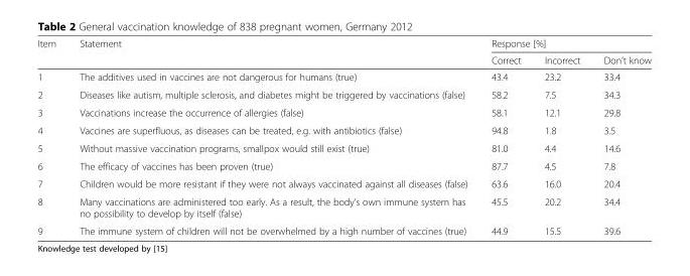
<table><thead><tr><td rowspan="2">Item</td><td rowspan="2">Statement</td><td colspan="3">Response [%]</td></tr><tr><td>Correct</td><td>Incorrect</td><td>Don’t know</td></tr></thead><tbody><tr><td>1</td><td>The additives used in vaccines are not dangerous for humans (true)</td><td>43.4</td><td>23.2</td><td>33.4</td></tr><tr><td>2</td><td>Diseases like autism, multiple sclerosis, and diabetes might be triggered by vaccinations (false)</td><td>58.2</td><td>7.5</td><td>34.3</td></tr><tr><td>3</td><td>Vaccinations increase the occurrence of allergies (false)</td><td>58.1</td><td>12.1</td><td>29.8</td></tr><tr><td>4</td><td>Vaccines are superfluous, as diseases can be treated, e.g. with antibiotics (false)</td><td>94.8</td><td>1.8</td><td>3.5</td></tr><tr><td>5</td><td>Without massive vaccination programs, smallpox would still exist (true)</td><td>81.0</td><td>4.4</td><td>14.6</td></tr><tr><td>6</td><td>The efficacy of vaccines has been proven (true)</td><td>87.7</td><td>4.5</td><td>7.8</td></tr><tr><td>7</td><td>Children would be more resistant if they were not always vaccinated against all diseases (false)</td><td>63.6</td><td>16.0</td><td>20.4</td></tr><tr><td>8</td><td>Many vaccinations are administered too early. As a result, the body’s own immune system has no possibility to develop by itself (false)</td><td>45.5</td><td>20.2</td><td>34.4</td></tr><tr><td>9</td><td>The immune system of children will not be overwhelmed by a high number of vaccines (true)</td><td>44.9</td><td>15.5</td><td>39.6</td></tr></tbody></table>